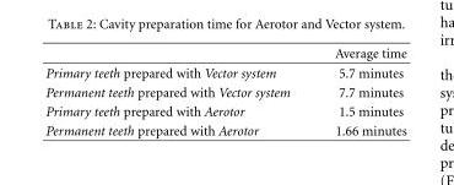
<table><thead><tr><td></td><td>Average time</td></tr></thead><tbody><tr><td>Primary teeth prepared with Vector system</td><td>5.7 minutes</td></tr><tr><td>Permanent teeth prepared with Vector system</td><td>7.7 minutes</td></tr><tr><td>Primary teeth prepared with Aerotor</td><td>1.5 minutes</td></tr><tr><td>Permanent teeth prepared with Aerotor</td><td>1.66 minutes</td></tr></tbody></table>